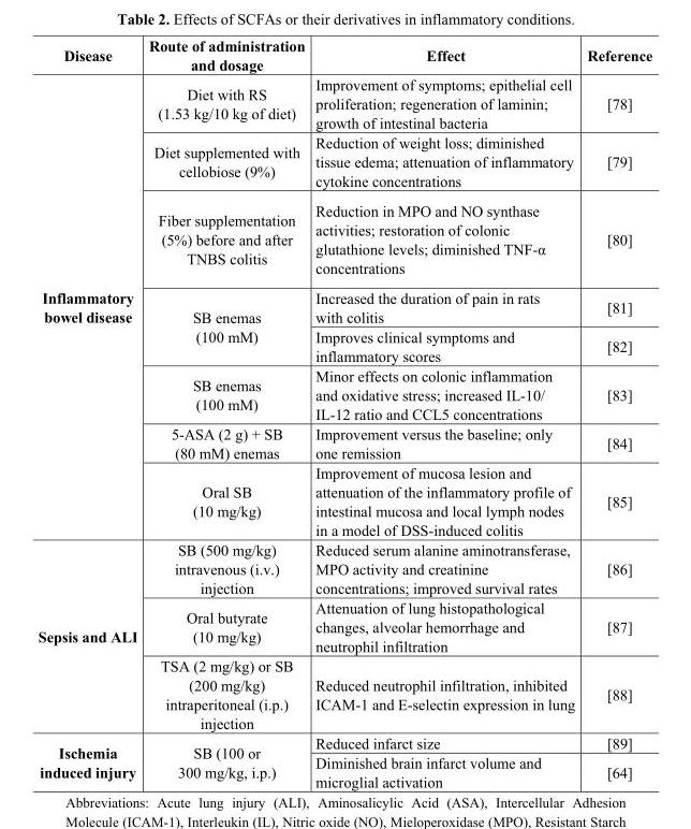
<table><thead><tr><td>Disease</td><td>Route of administration and dosage</td><td>Effect</td><td>Reference</td></tr></thead><tbody><tr><td rowspan="8">Inflammatory bowel disease</td><td>Diet with RS (1.53 kg/10 kg of diet)</td><td>Improvement of symptoms; epithelial cell proliferation; regeneration of laminin; growth of intestinal bacteria</td><td>[78]</td></tr><tr><td>Diet supplemented with cellobiose (9%)</td><td>Reduction of weight loss; diminished tissue edema; attenuation of inflammatory cytokine concentrations</td><td>[79]</td></tr><tr><td>Fiber supplementation (5%) before and after TNBS colitis</td><td>Reduction in MPO and NO synthase activities; restoration of colonic glutathione levels; diminished TNF-α concentrations</td><td>[80]</td></tr><tr><td rowspan="2">SB enemas (100 mM)</td><td>Increased the duration of pain in rats with colitis</td><td>[81]</td></tr><tr><td>Improves clinical symptoms and inflammatory scores</td><td>[82]</td></tr><tr><td>SB enemas (100 mM)</td><td>Minor effects on colonic inflammation and oxidative stress; increased IL-10/ IL-12 ratio and CCL5 concentrations</td><td>[83]</td></tr><tr><td>5-ASA (2 g) + SB (80 mM) enemas</td><td>Improvement versus the baseline; only one remission</td><td>[84]</td></tr><tr><td>Oral SB (10 mg/kg)</td><td>Improvement of mucosa lesion and attenuation of the inflammatory profile of intestinal mucosa and local lymph nodes in a model of DSS-induced colitis</td><td>[85]</td></tr><tr><td rowspan="3">Sepsis and ALI</td><td>SB (500 mg/kg) intravenous (i.v.) injection</td><td>Reduced serum alanine aminotransferase, MPO activity and creatinine concentrations; improved survival rates</td><td>[86]</td></tr><tr><td>Oral butyrate (10 mg/kg)</td><td>Attenuation of lung histopathological changes, alveolar hemorrhage and neutrophil infiltration</td><td>[87]</td></tr><tr><td>TSA (2 mg/kg) or SB (200 mg/kg) intraperitoneal (i.p.) injection</td><td>Reduced neutrophil infiltration, inhibited ICAM-1 and E-selectin expression in lung</td><td>[88]</td></tr><tr><td rowspan="2">Ischemia induced injury</td><td rowspan="2">SB (100 or 300 mg/kg, i.p.)</td><td>Reduced infarct size</td><td>[89]</td></tr><tr><td>Diminished brain infarct volume and microglial activation</td><td>[64]</td></tr></tbody></table>